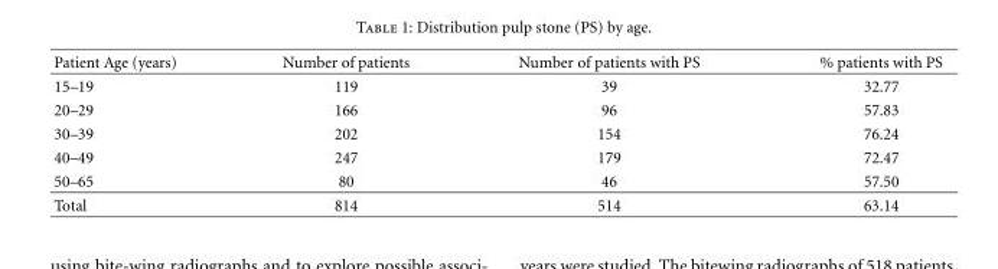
<table><thead><tr><td>Patient Age (years)</td><td>Number of patients</td><td>Number of patients with PS</td><td>% patients with PS</td></tr></thead><tbody><tr><td>15–19</td><td>119</td><td>39</td><td>32.77</td></tr><tr><td>20–29</td><td>166</td><td>96</td><td>57.83</td></tr><tr><td>30–39</td><td>202</td><td>154</td><td>76.24</td></tr><tr><td>40–49</td><td>247</td><td>179</td><td>72.47</td></tr><tr><td>50–65</td><td>80</td><td>46</td><td>57.50</td></tr><tr><td>Total</td><td>814</td><td>514</td><td>63.14</td></tr></tbody></table>